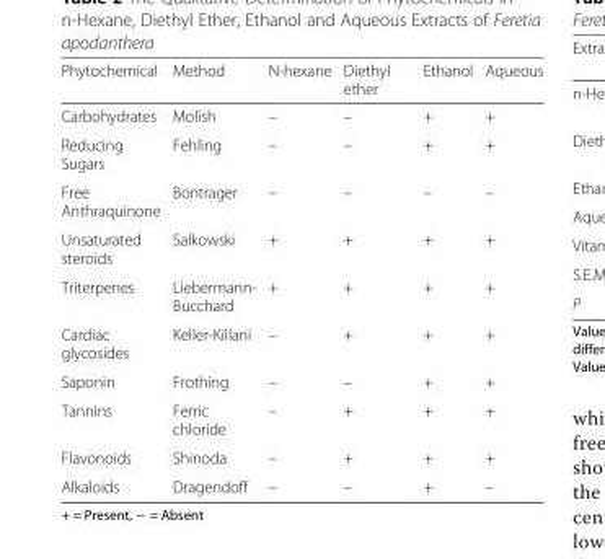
<table><thead><tr><td>Phytochemical</td><td>Method</td><td>N-hexane</td><td>Diethyl ether</td><td>Ethanol</td><td>Aqueous</td></tr></thead><tbody><tr><td>Carbohydrates</td><td>Molish</td><td>–</td><td>–</td><td>+</td><td>+</td></tr><tr><td>Reducing Sugars</td><td>Fehling</td><td>–</td><td>–</td><td>+</td><td>+</td></tr><tr><td>Free Anthraquinone</td><td>Bontrager</td><td>–</td><td>–</td><td>–</td><td>–</td></tr><tr><td>Unsaturated steroids</td><td>Salkowski</td><td>+</td><td>+</td><td>+</td><td>+</td></tr><tr><td>Triterpenes</td><td>Liebermann- Bucchard</td><td>+</td><td>+</td><td>+</td><td>+</td></tr><tr><td>Cardiac glycosides</td><td>Keller-Killani</td><td>–</td><td>+</td><td>+</td><td>+</td></tr><tr><td>Saponin</td><td>Frothing</td><td>–</td><td>–</td><td>+</td><td>+</td></tr><tr><td>Tannins</td><td>Ferric chloride</td><td>–</td><td>+</td><td>+</td><td>+</td></tr><tr><td>Flavonoids</td><td>Shinoda</td><td>–</td><td>+</td><td>+</td><td>+</td></tr><tr><td>Alkaloids</td><td>Dragendoff</td><td>–</td><td>–</td><td>+</td><td>–</td></tr></tbody></table>